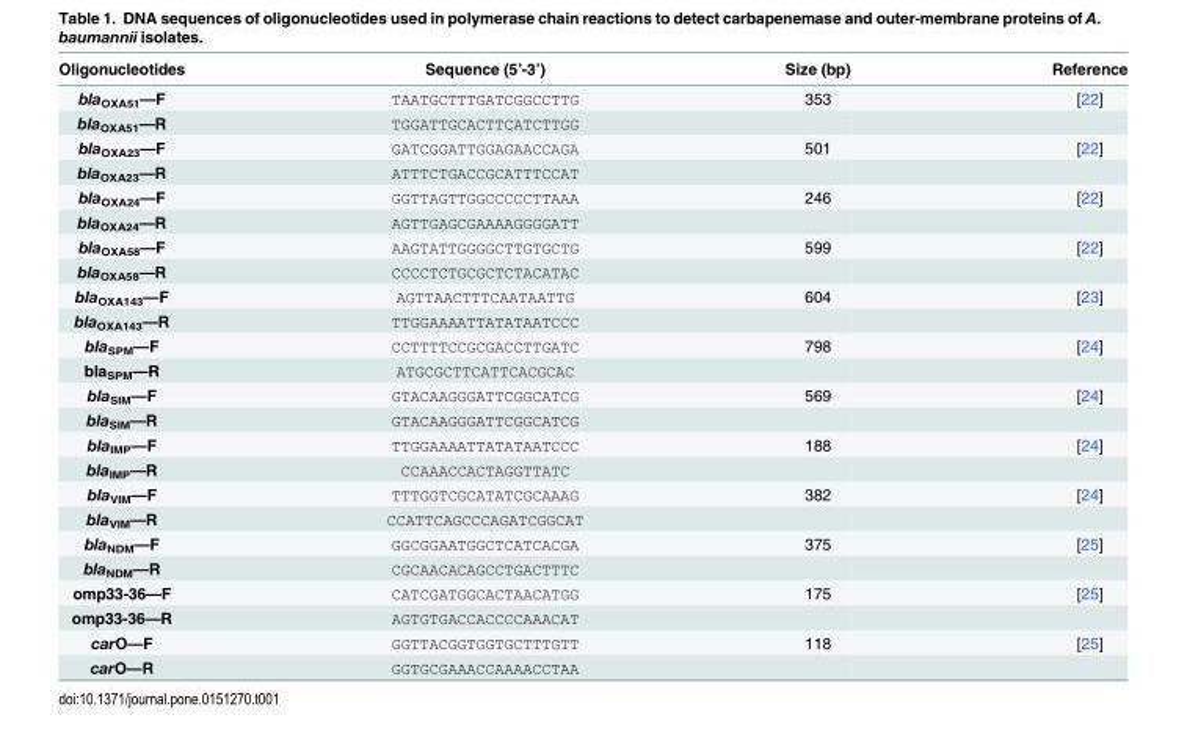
<table><thead><tr><td>Oligonucleotides</td><td>Sequence (5’-3’)</td><td>Size (bp)</td><td>Reference</td></tr></thead><tbody><tr><td>bla<sub>OXA51</sub>—F</td><td>TAATGCTTTGATCGGCCTTG</td><td>353</td><td>[22]</td></tr><tr><td>bla<sub>OXA51</sub>—R</td><td>TGGATTGCACTTCATCTTGG</td><td></td><td></td></tr><tr><td>bla<sub>OXA23</sub>—F</td><td>GATCGGATTGGAGAACCAGA</td><td>501</td><td>[22]</td></tr><tr><td>bla<sub>OXA23</sub>—R</td><td>ATTTCTGACCGCATTTCCAT</td><td></td><td></td></tr><tr><td>bla<sub>OXA24</sub>—F</td><td>GGTTAGTTGGCCCCCTTAAA</td><td>246</td><td>[22]</td></tr><tr><td>bla<sub>OXA24</sub>—R</td><td>AGTTGAGCGAAAAGGGGATT</td><td></td><td></td></tr><tr><td>bla<sub>OXA58</sub>—F</td><td>AAGTATTGGGGCTTGTGCTG</td><td>599</td><td>[22]</td></tr><tr><td>bla<sub>OXA58</sub>—R</td><td>CCCCTCTGCGCTCTACATAC</td><td></td><td></td></tr><tr><td>bla<sub>OXA143</sub>—F</td><td>AGTTAACTTTCAATAATTG</td><td>604</td><td>[23]</td></tr><tr><td>bla<sub>OXA143</sub>—R</td><td>TTGGAAAATTATATAATCCC</td><td></td><td></td></tr><tr><td>bla<sub>SPM</sub>—F</td><td>CCTTTTCCGCGACCTTGATC</td><td>798</td><td>[24]</td></tr><tr><td>bla<sub>SPM</sub>—R</td><td>ATGCGCTTCATTCACGCAC</td><td></td><td></td></tr><tr><td>bla<sub>SIM</sub>—F</td><td>GTACAAGGGATTCGGCATCG</td><td>569</td><td>[24]</td></tr><tr><td>bla<sub>SIM</sub>—R</td><td>GTACAAGGGATTCGGCATCG</td><td></td><td></td></tr><tr><td>bla<sub>IMP</sub>—F</td><td>TTGGAAAATTATATAATCCC</td><td>188</td><td>[24]</td></tr><tr><td>bla<sub>IMP</sub>—R</td><td>CCAAACCACTAGGTTATC</td><td></td><td></td></tr><tr><td>bla<sub>VIM</sub>—F</td><td>TTTGGTCGCATATCGCAAAG</td><td>382</td><td>[24]</td></tr><tr><td>bla<sub>VIM</sub>—R</td><td>CCATTCAGCCCAGATCGGCAT</td><td></td><td></td></tr><tr><td>bla<sub>NDM</sub>—F</td><td>GGCGGAATGGCTCATCACGA</td><td>375</td><td>[25]</td></tr><tr><td>bla<sub>NDM</sub>—R</td><td>CGCAACACAGCCTGACTTTC</td><td></td><td></td></tr><tr><td>omp33-36—F</td><td>CATCGATGGCACTAACATGG</td><td>175</td><td>[25]</td></tr><tr><td>omp33-36—R</td><td>AGTGTGACCACCCCAAACAT</td><td></td><td></td></tr><tr><td>carO—F</td><td>GGTTACGGTGGTGCTTTGTT</td><td>118</td><td>[25]</td></tr><tr><td>carO—R</td><td>GGTGCGAAACCAAAACCTAA</td><td></td><td></td></tr></tbody></table>